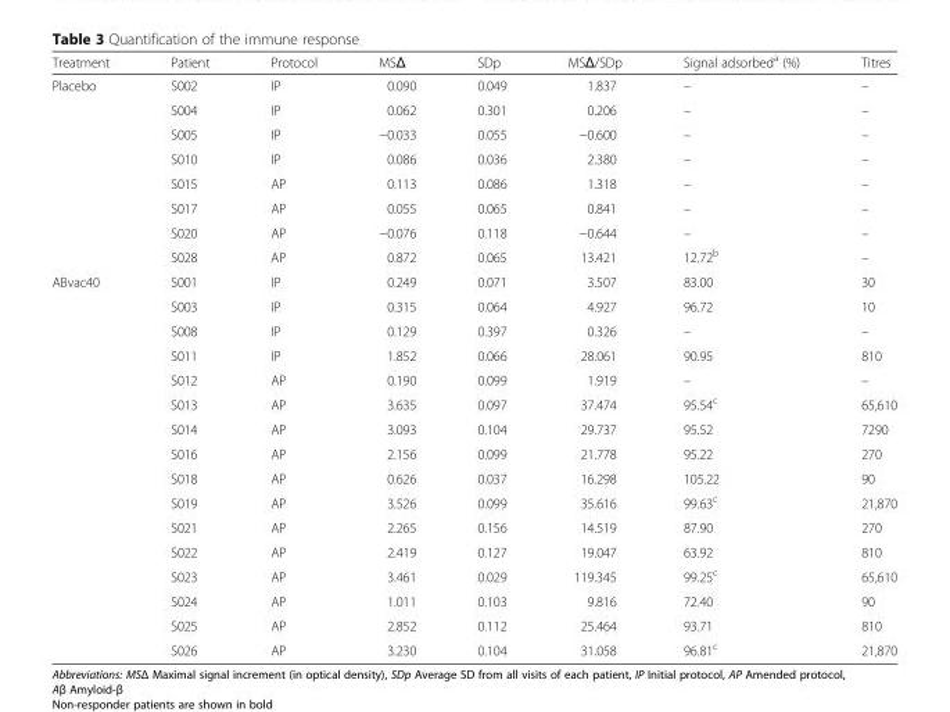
<table><thead><tr><td>Treatment</td><td>Patient</td><td>Protocol</td><td>MSΔ</td><td>SDp</td><td>MSΔ/SDp</td><td>Signal adsorbed<sup>a</sup> (%)</td><td>Titres</td></tr></thead><tbody><tr><td rowspan="8">Placebo</td><td>S002</td><td>IP</td><td>0.090</td><td>0.049</td><td>1.837</td><td>–</td><td>–</td></tr><tr><td>S004</td><td>IP</td><td>0.062</td><td>0.301</td><td>0.206</td><td>–</td><td>–</td></tr><tr><td>S005</td><td>IP</td><td>−0.033</td><td>0.055</td><td>−0.600</td><td>–</td><td>–</td></tr><tr><td>S010</td><td>IP</td><td>0.086</td><td>0.036</td><td>2.380</td><td>–</td><td>–</td></tr><tr><td>S015</td><td>AP</td><td>0.113</td><td>0.086</td><td>1.318</td><td>–</td><td>–</td></tr><tr><td>S017</td><td>AP</td><td>0.055</td><td>0.065</td><td>0.841</td><td>–</td><td>–</td></tr><tr><td>S020</td><td>AP</td><td>−0.076</td><td>0.118</td><td>−0.644</td><td>–</td><td>–</td></tr><tr><td>S028</td><td>AP</td><td>0.872</td><td>0.065</td><td>13.421</td><td>12.72<sup>b</sup></td><td>–</td></tr><tr><td rowspan="16">ABvac40</td><td>S001</td><td>IP</td><td>0.249</td><td>0.071</td><td>3.507</td><td>83.00</td><td>30</td></tr><tr><td>S003</td><td>IP</td><td>0.315</td><td>0.064</td><td>4.927</td><td>96.72</td><td>10</td></tr><tr><td>S008</td><td>IP</td><td>0.129</td><td>0.397</td><td>0.326</td><td>–</td><td>–</td></tr><tr><td>S011</td><td>IP</td><td>1.852</td><td>0.066</td><td>28.061</td><td>90.95</td><td>810</td></tr><tr><td>S012</td><td>AP</td><td>0.190</td><td>0.099</td><td>1.919</td><td>–</td><td>–</td></tr><tr><td>S013</td><td>AP</td><td>3.635</td><td>0.097</td><td>37.474</td><td>95.54<sup>c</sup></td><td>65,610</td></tr><tr><td>S014</td><td>AP</td><td>3.093</td><td>0.104</td><td>29.737</td><td>95.52</td><td>7290</td></tr><tr><td>S016</td><td>AP</td><td>2.156</td><td>0.099</td><td>21.778</td><td>95.22</td><td>270</td></tr><tr><td>S018</td><td>AP</td><td>0.626</td><td>0.037</td><td>16.298</td><td>105.22</td><td>90</td></tr><tr><td>S019</td><td>AP</td><td>3.526</td><td>0.099</td><td>35.616</td><td>99.63<sup>c</sup></td><td>21,870</td></tr><tr><td>S021</td><td>AP</td><td>2.265</td><td>0.156</td><td>14.519</td><td>87.90</td><td>270</td></tr><tr><td>S022</td><td>AP</td><td>2.419</td><td>0.127</td><td>19.047</td><td>63.92</td><td>810</td></tr><tr><td>S023</td><td>AP</td><td>3.461</td><td>0.029</td><td>119.345</td><td>99.25<sup>c</sup></td><td>65,610</td></tr><tr><td>S024</td><td>AP</td><td>1.011</td><td>0.103</td><td>9.816</td><td>72.40</td><td>90</td></tr><tr><td>S025</td><td>AP</td><td>2.852</td><td>0.112</td><td>25.464</td><td>93.71</td><td>810</td></tr><tr><td>S026</td><td>AP</td><td>3.230</td><td>0.104</td><td>31.058</td><td>96.81<sup>c</sup></td><td>21,870</td></tr></tbody></table>